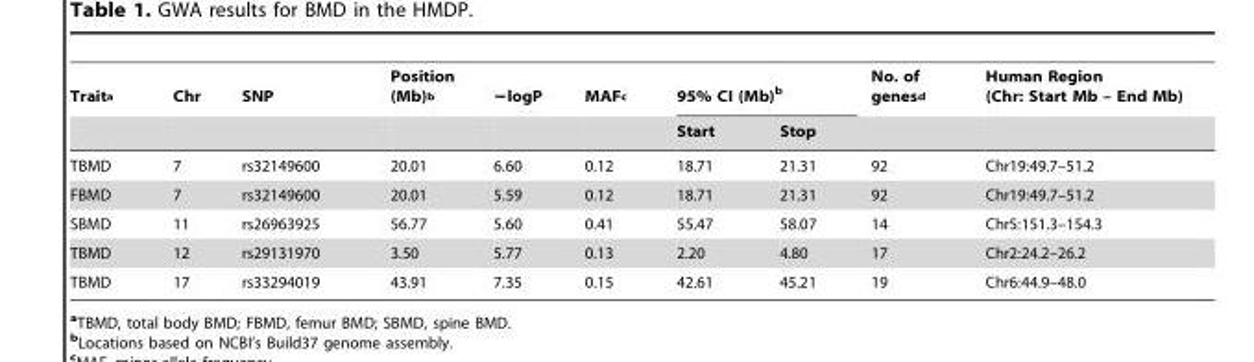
<table><thead><tr><td rowspan="2">Trait<sup>a</sup></td><td rowspan="2">Chr</td><td rowspan="2">SNP</td><td rowspan="2">Position (Mb)<sup>b</sup></td><td rowspan="2">−logP</td><td rowspan="2">MAF<sup>c</sup></td><td colspan="2">95% CI (Mb)<sup>b</sup></td><td rowspan="2">No. of genes<sup>d</sup></td><td rowspan="2">Human Region (Chr: Start Mb – End Mb)</td></tr><tr><td>Start</td><td>Stop</td></tr></thead><tbody><tr><td>TBMD</td><td>7</td><td>rs32149600</td><td>20.01</td><td>6.60</td><td>0.12</td><td>18.71</td><td>21.31</td><td>92</td><td>Chr19:49.7–51.2</td></tr><tr><td>FBMD</td><td>7</td><td>rs32149600</td><td>20.01</td><td>5.59</td><td>0.12</td><td>18.71</td><td>21.31</td><td>92</td><td>Chr19:49.7–51.2</td></tr><tr><td>SBMD</td><td>11</td><td>rs26963925</td><td>56.77</td><td>5.60</td><td>0.41</td><td>55.47</td><td>58.07</td><td>14</td><td>Chr5:151.3–154.3</td></tr><tr><td>TBMD</td><td>12</td><td>rs29131970</td><td>3.50</td><td>5.77</td><td>0.13</td><td>2.20</td><td>4.80</td><td>17</td><td>Chr2:24.2–26.2</td></tr><tr><td>TBMD</td><td>17</td><td>rs33294019</td><td>43.91</td><td>7.35</td><td>0.15</td><td>42.61</td><td>45.21</td><td>19</td><td>Chr6:44.9–48.0</td></tr></tbody></table>